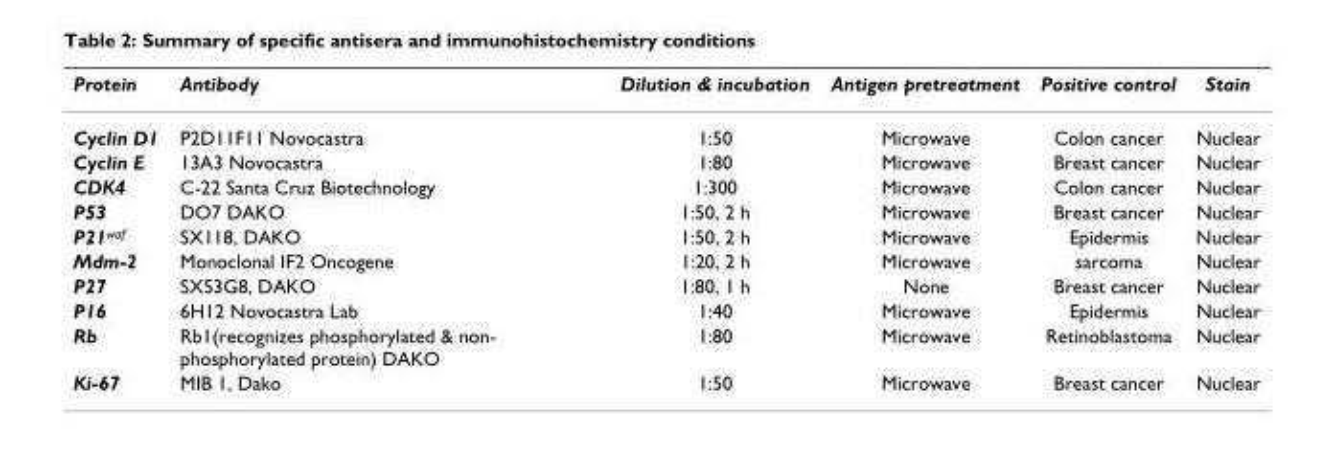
<table><thead><tr><td>Protein</td><td>Antibody</td><td>Dilution &amp; incubation</td><td>Antigen pretreatment</td><td>Positive control</td><td>Stain</td></tr></thead><tbody><tr><td>Cyclin D1</td><td>P2D11F11 Novocastra</td><td>1:50</td><td>Microwave</td><td>Colon cancer</td><td>Nuclear</td></tr><tr><td>Cyclin E</td><td>13A3 Novocastra</td><td>1:80</td><td>Microwave</td><td>Breast cancer</td><td>Nuclear</td></tr><tr><td>CDK4</td><td>C-22 Santa Cruz Biotechnology</td><td>1:300</td><td>Microwave</td><td>Colon cancer</td><td>Nuclear</td></tr><tr><td>P53</td><td>DO7 DAKO</td><td>1:50, 2 h</td><td>Microwave</td><td>Breast cancer</td><td>Nuclear</td></tr><tr><td>P21waf</td><td>SX118, DAKO</td><td>1:50, 2 h</td><td>Microwave</td><td>Epidermis</td><td>Nuclear</td></tr><tr><td>Mdm-2</td><td>Monoclonal IF2 Oncogene</td><td>1:20, 2 h</td><td>Microwave</td><td>sarcoma</td><td>Nuclear</td></tr><tr><td>P27</td><td>SX53G8, DAKO</td><td>1:80, 1 h</td><td>None</td><td>Breast cancer</td><td>Nuclear</td></tr><tr><td>P16</td><td>6H12 Novocastra Lab</td><td>1:40</td><td>Microwave</td><td>Epidermis</td><td>Nuclear</td></tr><tr><td>Rb</td><td>Rb1(recognizes phosphorylated &amp; non- phosphorylated protein) DAKO</td><td>1:80</td><td>Microwave</td><td>Retinoblastoma</td><td>Nuclear</td></tr><tr><td>Ki-67</td><td>MIB 1, Dako</td><td>1:50</td><td>Microwave</td><td>Breast cancer</td><td>Nuclear</td></tr></tbody></table>